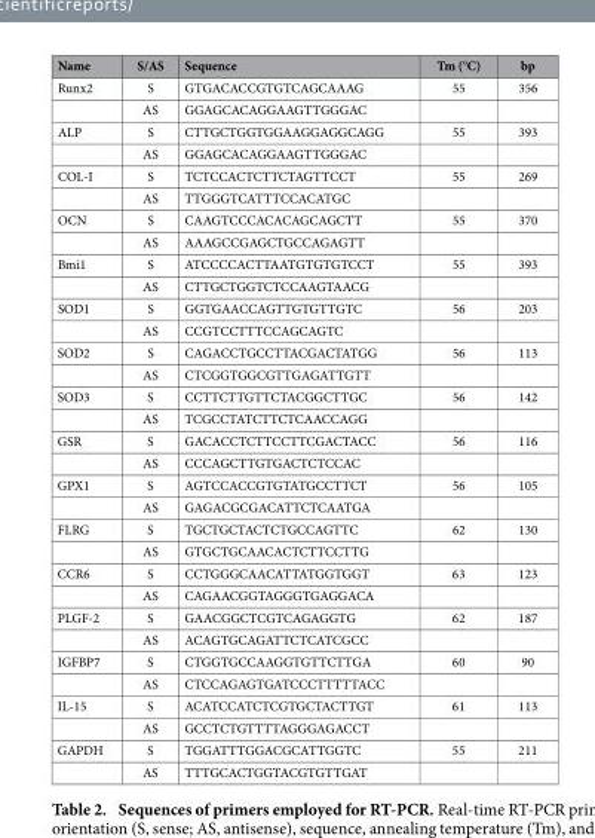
<table><thead><tr><td>Name</td><td>S/AS</td><td>Sequence</td><td>Tm (°C)</td><td>bp</td></tr></thead><tbody><tr><td rowspan="2">Runx2</td><td>S</td><td>GTGACACCGTGTCAGCAAAG</td><td>55</td><td>356</td></tr><tr><td>AS</td><td>GGAGCACAGGAAGTTGGGAC</td><td></td><td></td></tr><tr><td rowspan="2">ALP</td><td>S</td><td>CTTGCTGGTGGAAGGAGGCAGG</td><td>55</td><td>393</td></tr><tr><td>AS</td><td>GGAGCACAGGAAGTTGGGAC</td><td></td><td></td></tr><tr><td rowspan="2">COL-I</td><td>S</td><td>TCTCCACTCTTCTAGTTCCT</td><td>55</td><td>269</td></tr><tr><td>AS</td><td>TTGGGTCATTTCCACATGC</td><td></td><td></td></tr><tr><td rowspan="2">OCN</td><td>S</td><td>CAAGTCCCACACAGCAGCTT</td><td>55</td><td>370</td></tr><tr><td>AS</td><td>AAAGCCGAGCTGCCAGAGTT</td><td></td><td></td></tr><tr><td rowspan="2">Bmi1</td><td>S</td><td>ATCCCCACTTAATGTGTGTCCT</td><td>55</td><td>393</td></tr><tr><td>AS</td><td>CTTGCTGGTCTCCAAGTAACG</td><td></td><td></td></tr><tr><td rowspan="2">SOD1</td><td>S</td><td>GGTGAACCAGTTGTGTTGTC</td><td>56</td><td>203</td></tr><tr><td>AS</td><td>CCGTCCTTTCCAGCAGTC</td><td></td><td></td></tr><tr><td rowspan="2">SOD2</td><td>S</td><td>CAGACCTGCCTTACGACTATGG</td><td>56</td><td>113</td></tr><tr><td>AS</td><td>CTCGGTGGCGTTGAGATTGTT</td><td></td><td></td></tr><tr><td rowspan="2">SOD3</td><td>S</td><td>CCTTCTTGTTCTACGGCTTGC</td><td>56</td><td>142</td></tr><tr><td>AS</td><td>TCGCCTATCTTCTCAACCAGG</td><td></td><td></td></tr><tr><td rowspan="2">GSR</td><td>S</td><td>GACACCTCTTCCTTCGACTACC</td><td>56</td><td>116</td></tr><tr><td>AS</td><td>CCCAGCTTGTGACTCTCCAC</td><td></td><td></td></tr><tr><td rowspan="2">GPX1</td><td>S</td><td>AGTCCACCGTGTATGCCTTCT</td><td>56</td><td>105</td></tr><tr><td>AS</td><td>GAGACGCGACATTCTCAATGA</td><td></td><td></td></tr><tr><td rowspan="2">FLRG</td><td>S</td><td>TGCTGCTACTCTGCCAGTTC</td><td>62</td><td>130</td></tr><tr><td>AS</td><td>GTGCTGCAACACTCTTCCTTG</td><td></td><td></td></tr><tr><td rowspan="2">CCR6</td><td>S</td><td>CCTGGGCAACATTATGGTGGT</td><td>63</td><td>123</td></tr><tr><td>AS</td><td>CAGAACGGTAGGGTGAGGACA</td><td></td><td></td></tr><tr><td rowspan="2">PLGF-2</td><td>S</td><td>GAACGGCTCGTCAGAGGTG</td><td>62</td><td>187</td></tr><tr><td>AS</td><td>ACAGTGCAGATTCTCATCGCC</td><td></td><td></td></tr><tr><td rowspan="2">IGFBP7</td><td>S</td><td>CTGGTGCCAAGGTGTTCTTGA</td><td>60</td><td>90</td></tr><tr><td>AS</td><td>CTCCAGAGTGATCCCTTTTTACC</td><td></td><td></td></tr><tr><td rowspan="2">IL-15</td><td>S</td><td>ACATCCATCTCGTGCTACTTGT</td><td>61</td><td>113</td></tr><tr><td>AS</td><td>GCCTCTGTTTTAGGGAGACCT</td><td></td><td></td></tr><tr><td rowspan="2">GAPDH</td><td>S</td><td>TGGATTTGGACGCATTGGTC</td><td>55</td><td>211</td></tr><tr><td>AS</td><td>TTTGCACTGGTACGTGTTGAT</td><td></td><td></td></tr></tbody></table>